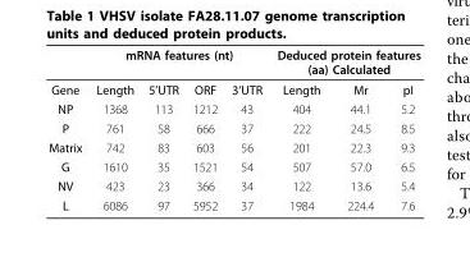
<table><thead><tr><td rowspan="2">Gene</td><td colspan="4">mRNA features (nt)</td><td colspan="3">Deduced protein features (aa) Calculated</td></tr><tr><td>Length</td><td>5’UTR</td><td>ORF</td><td>3’UTR</td><td>Length</td><td>Mr</td><td>pI</td></tr></thead><tbody><tr><td>NP</td><td>1368</td><td>113</td><td>1212</td><td>43</td><td>404</td><td>44.1</td><td>5.2</td></tr><tr><td>P</td><td>761</td><td>58</td><td>666</td><td>37</td><td>222</td><td>24.5</td><td>8.5</td></tr><tr><td>Matrix</td><td>742</td><td>83</td><td>603</td><td>56</td><td>201</td><td>22.3</td><td>9.3</td></tr><tr><td>G</td><td>1610</td><td>35</td><td>1521</td><td>54</td><td>507</td><td>57.0</td><td>6.5</td></tr><tr><td>NV</td><td>423</td><td>23</td><td>366</td><td>34</td><td>122</td><td>13.6</td><td>5.4</td></tr><tr><td>L</td><td>6086</td><td>97</td><td>5952</td><td>37</td><td>1984</td><td>224.4</td><td>7.6</td></tr></tbody></table>